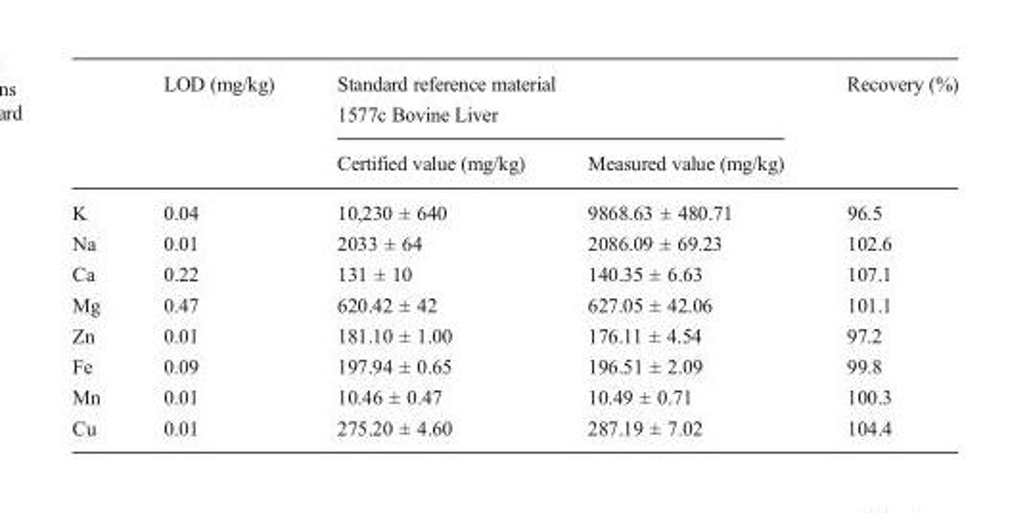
<table><thead><tr><td rowspan="2"></td><td rowspan="2">LOD (mg/kg)</td><td colspan="2">Standard reference material 1577c Bovine Liver</td><td rowspan="2">Recovery (%)</td></tr><tr><td>Certified value (mg/kg)</td><td>Measured value (mg/kg)</td></tr></thead><tbody><tr><td>K</td><td>0.04</td><td>10,230 ± 640</td><td>9868.63 ± 480.71</td><td>96.5</td></tr><tr><td>Na</td><td>0.01</td><td>2033 ± 64</td><td>2086.09 ± 69.23</td><td>102.6</td></tr><tr><td>Ca</td><td>0.22</td><td>131 ± 10</td><td>140.35 ± 6.63</td><td>107.1</td></tr><tr><td>Mg</td><td>0.47</td><td>620.42 ± 42</td><td>627.05 ± 42.06</td><td>101.1</td></tr><tr><td>Zn</td><td>0.01</td><td>181.10 ± 1.00</td><td>176.11 ± 4.54</td><td>97.2</td></tr><tr><td>Fe</td><td>0.09</td><td>197.94 ± 0.65</td><td>196.51 ± 2.09</td><td>99.8</td></tr><tr><td>Mn</td><td>0.01</td><td>10.46 ± 0.47</td><td>10.49 ± 0.71</td><td>100.3</td></tr><tr><td>Cu</td><td>0.01</td><td>275.20 ± 4.60</td><td>287.19 ± 7.02</td><td>104.4</td></tr></tbody></table>